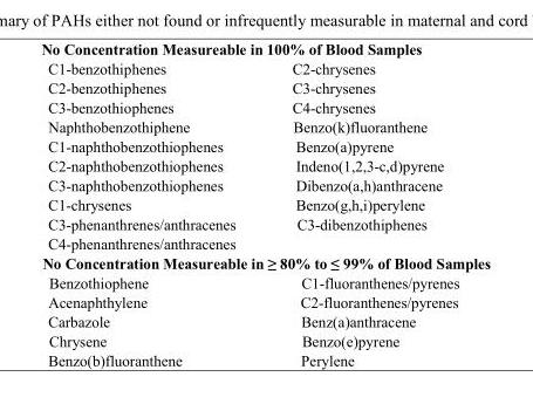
<table><tbody><tr><td colspan="2">No Concentration Measureable in 100% of Blood Samples</td></tr><tr><td>C1-benzothiphenes</td><td>C2-chrysenes</td></tr><tr><td>C2-benzothiphenes</td><td>C3-chrysenes</td></tr><tr><td>C3-benzothiophenes</td><td>C4-chrysenes</td></tr><tr><td>Naphthobenzothiphene</td><td>Benzo(k)fluoranthene</td></tr><tr><td>C1-naphthobenzothiophenes</td><td>Benzo(a)pyrene</td></tr><tr><td>C2-naphthobenzothiophenes</td><td>Indeno(1,2,3-c,d)pyrene</td></tr><tr><td>C3-naphthobenzothiophenes</td><td>Dibenzo(a,h)anthracene</td></tr><tr><td>C1-chrysenes</td><td>Benzo(g,h,i)perylene</td></tr><tr><td>C3-phenanthrenes/anthracenes</td><td>C3-dibenzothiphenes</td></tr><tr><td colspan="2">C4-phenanthrenes/anthracenes</td></tr><tr><td colspan="2">No Concentration Measureable in ≥ 80% to ≤ 99% of Blood Samples</td></tr><tr><td>Benzothiophene</td><td>C1-fluoranthenes/pyrenes</td></tr><tr><td>Acenaphthylene</td><td>C2-fluoranthenes/pyrenes</td></tr><tr><td>Carbazole</td><td>Benz(a)anthracene</td></tr><tr><td>Chrysene</td><td>Benzo(e)pyrene</td></tr><tr><td>Benzo(b)fluoranthene</td><td>Perylene</td></tr></tbody></table>